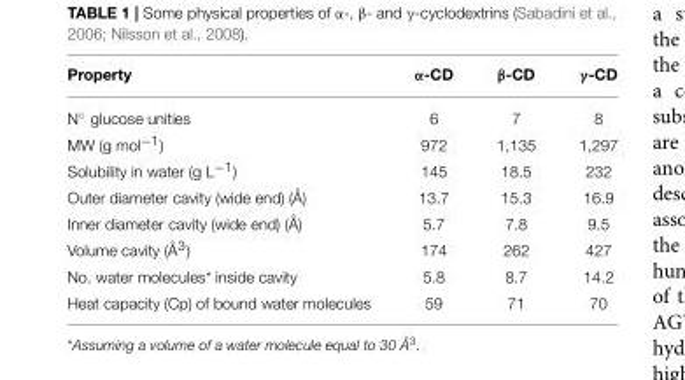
<table><thead><tr><td>Property</td><td>α-CD</td><td>β-CD</td><td>γ-CD</td></tr></thead><tbody><tr><td>N◦ glucose unities</td><td>6</td><td>7</td><td>8</td></tr><tr><td>MW (g mol<sup>−1</sup>)</td><td>972</td><td>1,135</td><td>1,297</td></tr><tr><td>Solubility in water (g L<sup>−1</sup>)</td><td>145</td><td>18.5</td><td>232</td></tr><tr><td>Outer diameter cavity (wide end) (Å)</td><td>13.7</td><td>15.3</td><td>16.9</td></tr><tr><td>Inner diameter cavity (wide end) (Å)</td><td>5.7</td><td>7.8</td><td>9.5</td></tr><tr><td>Volume cavity (Å<sup>3</sup>)</td><td>174</td><td>262</td><td>427</td></tr><tr><td>No. water molecules* inside cavity</td><td>5.8</td><td>8.7</td><td>14.2</td></tr><tr><td>Heat capacity (Cp) of bound water molecules</td><td>59</td><td>71</td><td>70</td></tr></tbody></table>